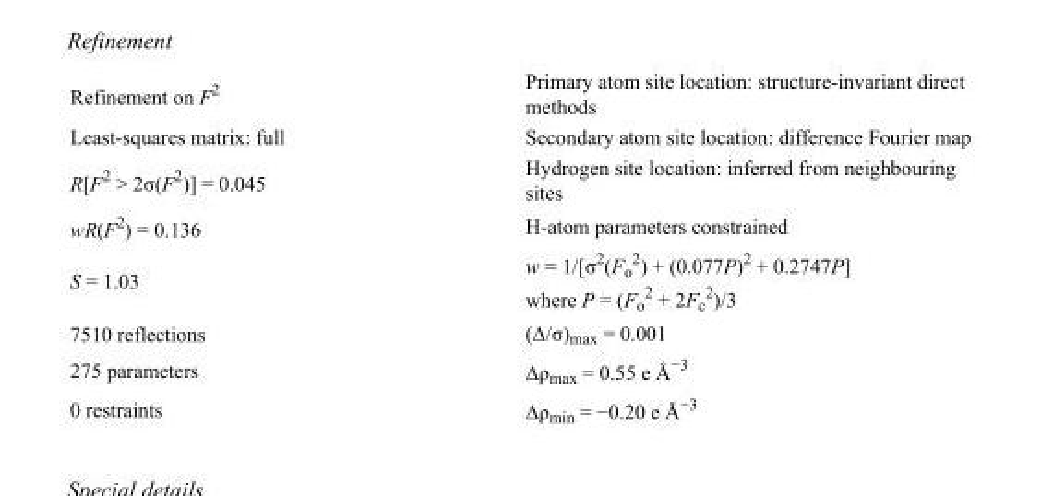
<table><tbody><tr><td>Refinement on F<sup>2</sup></td><td>Primary atom site location: structure-invariant direct methods</td></tr><tr><td>Least-squares matrix: full</td><td>Secondary atom site location: difference Fourier map</td></tr><tr><td>R[F<sup>2</sup> &gt; 2σ(F<sup>2</sup>)] = 0.045</td><td>Hydrogen site location: inferred from neighbouring sites</td></tr><tr><td>wR(F<sup>2</sup>) = 0.136</td><td>H-atom parameters constrained</td></tr><tr><td>S = 1.03</td><td>w = 1/[σ<sup>2</sup>(F<sub>o</sub> <sup>2</sup>) + (0.077P)<sup>2</sup> + 0.2747P] where P = (F<sub>o</sub> <sup>2</sup> + 2F<sub>c</sub> <sup>2</sup>)/3</td></tr><tr><td>7510 reflections</td><td>(Δ/σ)<sub>max</sub> = 0.001</td></tr><tr><td>275 parameters</td><td>Δρ<sub>max</sub> = 0.55 e Å<sup>−3</sup></td></tr><tr><td>0 restraints</td><td>Δρ<sub>min</sub> = −0.20 e Å<sup>−3</sup></td></tr></tbody></table>